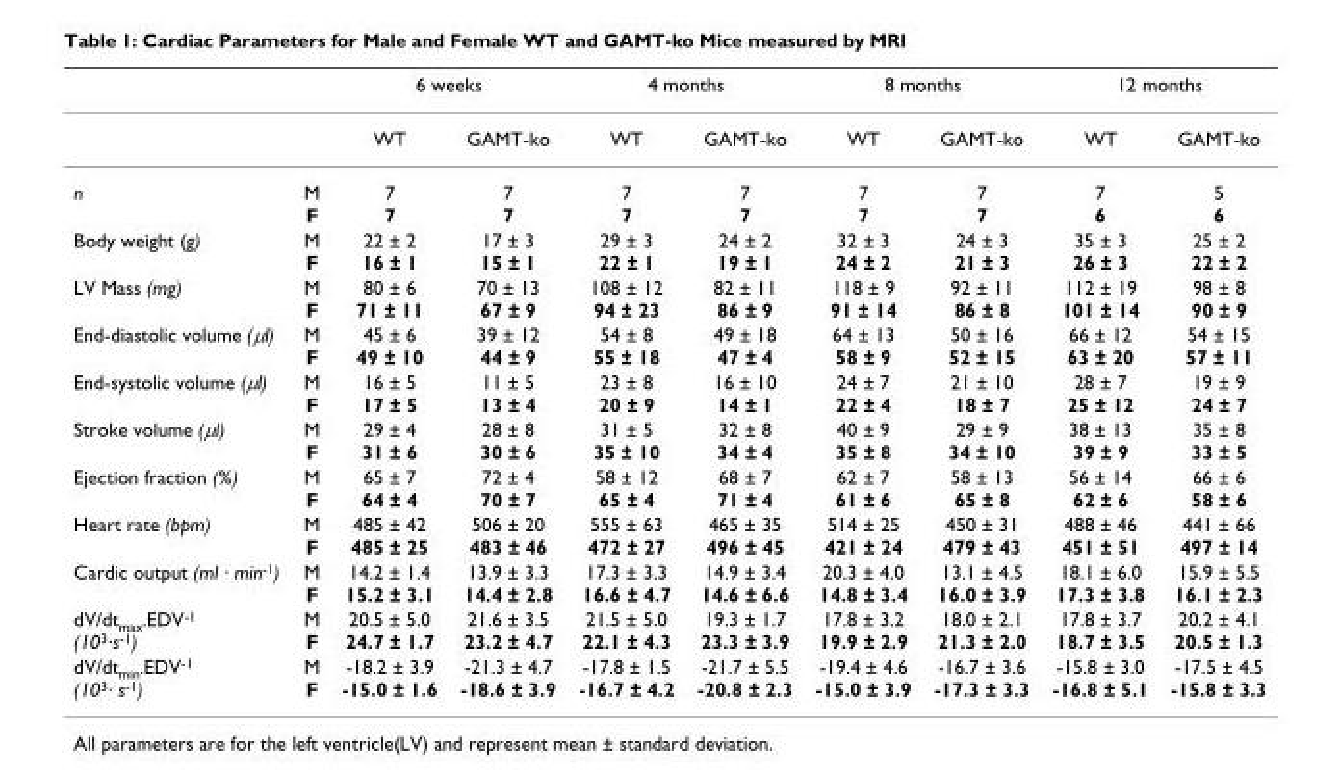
<table><thead><tr><td rowspan="2"></td><td rowspan="2"></td><td colspan="2">6 weeks</td><td colspan="2">4 months</td><td colspan="2">8 months</td><td colspan="2">12 months</td></tr><tr><td>WT</td><td>GAMT-ko</td><td>WT</td><td>GAMT-ko</td><td>WT</td><td>GAMT-ko</td><td>WT</td><td>GAMT-ko</td></tr></thead><tbody><tr><td>n</td><td>M F</td><td>7 7</td><td>7 7</td><td>7 7</td><td>7 7</td><td>7 7</td><td>7 7</td><td>7 6</td><td>5 6</td></tr><tr><td>Body weight (g)</td><td>M F</td><td>22 ± 2 16 ± 1</td><td>17 ± 3 15 ± 1</td><td>29 ± 3 22 ± 1</td><td>24 ± 2 19 ± 1</td><td>32 ± 3 24 ± 2</td><td>24 ± 3 21 ± 3</td><td>35 ± 3 26 ± 3</td><td>25 ± 2 22 ± 2</td></tr><tr><td>LV Mass (mg)</td><td>M F</td><td>80 ± 6 71 ± 11</td><td>70 ± 13 67 ± 9</td><td>108 ± 12 94 ± 23</td><td>82 ± 11 86 ± 9</td><td>118 ± 9 91 ± 14</td><td>92 ± 11 86 ± 8</td><td>112 ± 19 101 ± 14</td><td>98 ± 8 90 ± 9</td></tr><tr><td>End-diastolic volume (µl)</td><td>M F</td><td>45 ± 6 49 ± 10</td><td>39 ± 12 44 ± 9</td><td>54 ± 8 55 ± 18</td><td>49 ± 18 47 ± 4</td><td>64 ± 13 58 ± 9</td><td>50 ± 16 52 ± 15</td><td>66 ± 12 63 ± 20</td><td>54 ± 15 57 ± 11</td></tr><tr><td>End-systolic volume (µl)</td><td>M F</td><td>16 ± 5 17 ± 5</td><td>11 ± 5 13 ± 4</td><td>23 ± 8 20 ± 9</td><td>16 ± 10 14 ± 1</td><td>24 ± 7 22 ± 4</td><td>21 ± 10 18 ± 7</td><td>28 ± 7 25 ± 12</td><td>19 ± 9 24 ± 7</td></tr><tr><td>Stroke volume (µl)</td><td>M F</td><td>29 ± 4 31 ± 6</td><td>28 ± 8 30 ± 6</td><td>31 ± 5 35 ± 10</td><td>32 ± 8 34 ± 4</td><td>40 ± 9 35 ± 8</td><td>29 ± 9 34 ± 10</td><td>38 ± 13 39 ± 9</td><td>35 ± 8 33 ± 5</td></tr><tr><td>Ejection fraction (%)</td><td>M F</td><td>65 ± 7 64 ± 4</td><td>72 ± 4 70 ± 7</td><td>58 ± 12 65 ± 4</td><td>68 ± 7 71 ± 4</td><td>62 ± 7 61 ± 6</td><td>58 ± 13 65 ± 8</td><td>56 ± 14 62 ± 6</td><td>66 ± 6 58 ± 6</td></tr><tr><td>Heart rate (bpm)</td><td>M F</td><td>485 ± 42 485 ± 25</td><td>506 ± 20 483 ± 46</td><td>555 ± 63 472 ± 27</td><td>465 ± 35 496 ± 45</td><td>514 ± 25 421 ± 24</td><td>450 ± 31 479 ± 43</td><td>488 ± 46 451 ± 51</td><td>441 ± 66 497 ± 14</td></tr><tr><td>Cardic output (ml · min<sup>-1</sup>)</td><td>M F</td><td>14.2 ± 1.4 15.2 ± 3.1</td><td>13.9 ± 3.3 14.4 ± 2.8</td><td>17.3 ± 3.3 16.6 ± 4.7</td><td>14.9 ± 3.4 14.6 ± 6.6</td><td>20.3 ± 4.0 14.8 ± 3.4</td><td>13.1 ± 4.5 16.0 ± 3.9</td><td>18.1 ± 6.0 17.3 ± 3.8</td><td>15.9 ± 5.5 16.1 ± 2.3</td></tr><tr><td>dV/dt<sub>max</sub>.EDV<sup>-1</sup> (10<sup>3</sup>·s<sup>-1</sup>)</td><td>M F</td><td>20.5 ± 5.0 24.7 ± 1.7</td><td>21.6 ± 3.5 23.2 ± 4.7</td><td>21.5 ± 5.0 22.1 ± 4.3</td><td>19.3 ± 1.7 23.3 ± 3.9</td><td>17.8 ± 3.2 19.9 ± 2.9</td><td>18.0 ± 2.1 21.3 ± 2.0</td><td>17.8 ± 3.7 18.7 ± 3.5</td><td>20.2 ± 4.1 20.5 ± 1.3</td></tr><tr><td>dV/dt<sub>min</sub>.EDV<sup>-1</sup> (10<sup>3</sup>· s<sup>-1</sup>)</td><td>M F</td><td>-18.2 ± 3.9 -15.0 ± 1.6</td><td>-21.3 ± 4.7 -18.6 ± 3.9</td><td>-17.8 ± 1.5 -16.7 ± 4.2</td><td>-21.7 ± 5.5 -20.8 ± 2.3</td><td>-19.4 ± 4.6 -15.0 ± 3.9</td><td>-16.7 ± 3.6 -17.3 ± 3.3</td><td>-15.8 ± 3.0 -16.8 ± 5.1</td><td>-17.5 ± 4.5 -15.8 ± 3.3</td></tr></tbody></table>